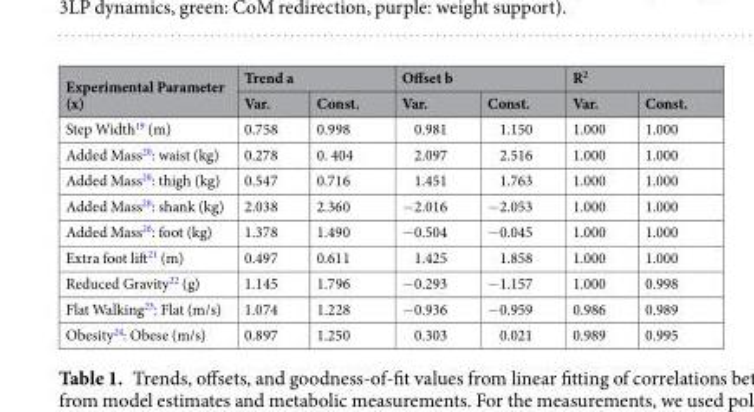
<table><thead><tr><td rowspan="2">Experimental Parameter (x)</td><td colspan="2">Trend a</td><td colspan="2">Offset b</td><td colspan="2">R<sup>2</sup></td></tr><tr><td>Var.</td><td>Const.</td><td>Var.</td><td>Const.</td><td>Var.</td><td>Const.</td></tr></thead><tbody><tr><td>Step Width<sup>19</sup> (m)</td><td>0.758</td><td>0.998</td><td>0.981</td><td>1.150</td><td>1.000</td><td>1.000</td></tr><tr><td>Added Mass<sup>20</sup>: waist (kg)</td><td>0.278</td><td>0. 404</td><td>2.097</td><td>2.516</td><td>1.000</td><td>1.000</td></tr><tr><td>Added Mass<sup>20</sup>: thigh (kg)</td><td>0.547</td><td>0.716</td><td>1.451</td><td>1.763</td><td>1.000</td><td>1.000</td></tr><tr><td>Added Mass<sup>20</sup>: shank (kg)</td><td>2.038</td><td>2.360</td><td>−2.016</td><td>−2.053</td><td>1.000</td><td>1.000</td></tr><tr><td>Added Mass<sup>20</sup>: foot (kg)</td><td>1.378</td><td>1.490</td><td>−0.504</td><td>−0.045</td><td>1.000</td><td>1.000</td></tr><tr><td>Extra foot lift<sup>21</sup> (m)</td><td>0.497</td><td>0.611</td><td>1.425</td><td>1.858</td><td>1.000</td><td>1.000</td></tr><tr><td>Reduced Gravity<sup>22</sup> (g)</td><td>1.145</td><td>1.796</td><td>−0.293</td><td>−1.157</td><td>1.000</td><td>0.998</td></tr><tr><td>Flat Walking<sup>23</sup>: Flat (m/s)</td><td>1.074</td><td>1.228</td><td>−0.936</td><td>−0.959</td><td>0.986</td><td>0.989</td></tr><tr><td>Obesity<sup>24</sup>: Obese (m/s)</td><td>0.897</td><td>1.250</td><td>0.303</td><td>0.021</td><td>0.989</td><td>0.995</td></tr></tbody></table>